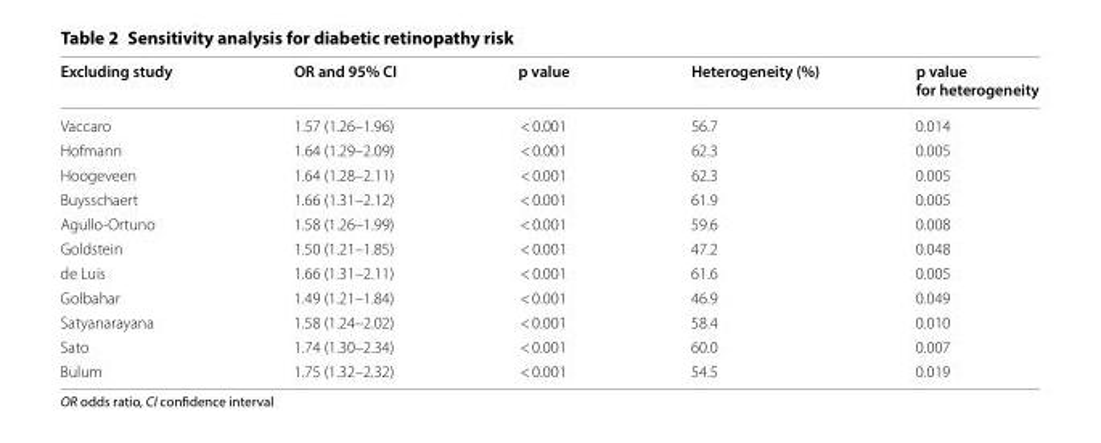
<table><thead><tr><td>Excluding study</td><td>OR and 95% CI</td><td>p value</td><td>Heterogeneity (%)</td><td>p value for heterogeneity</td></tr></thead><tbody><tr><td>Vaccaro</td><td>1.57 (1.26–1.96)</td><td>&lt; 0.001</td><td>56.7</td><td>0.014</td></tr><tr><td>Hofmann</td><td>1.64 (1.29–2.09)</td><td>&lt; 0.001</td><td>62.3</td><td>0.005</td></tr><tr><td>Hoogeveen</td><td>1.64 (1.28–2.11)</td><td>&lt; 0.001</td><td>62.3</td><td>0.005</td></tr><tr><td>Buysschaert</td><td>1.66 (1.31–2.12)</td><td>&lt; 0.001</td><td>61.9</td><td>0.005</td></tr><tr><td>Agullo-Ortuno</td><td>1.58 (1.26–1.99)</td><td>&lt; 0.001</td><td>59.6</td><td>0.008</td></tr><tr><td>Goldstein</td><td>1.50 (1.21–1.85)</td><td>&lt; 0.001</td><td>47.2</td><td>0.048</td></tr><tr><td>de Luis</td><td>1.66 (1.31–2.11)</td><td>&lt; 0.001</td><td>61.6</td><td>0.005</td></tr><tr><td>Golbahar</td><td>1.49 (1.21–1.84)</td><td>&lt; 0.001</td><td>46.9</td><td>0.049</td></tr><tr><td>Satyanarayana</td><td>1.58 (1.24–2.02)</td><td>&lt; 0.001</td><td>58.4</td><td>0.010</td></tr><tr><td>Sato</td><td>1.74 (1.30–2.34)</td><td>&lt; 0.001</td><td>60.0</td><td>0.007</td></tr><tr><td>Bulum</td><td>1.75 (1.32–2.32)</td><td>&lt; 0.001</td><td>54.5</td><td>0.019</td></tr></tbody></table>